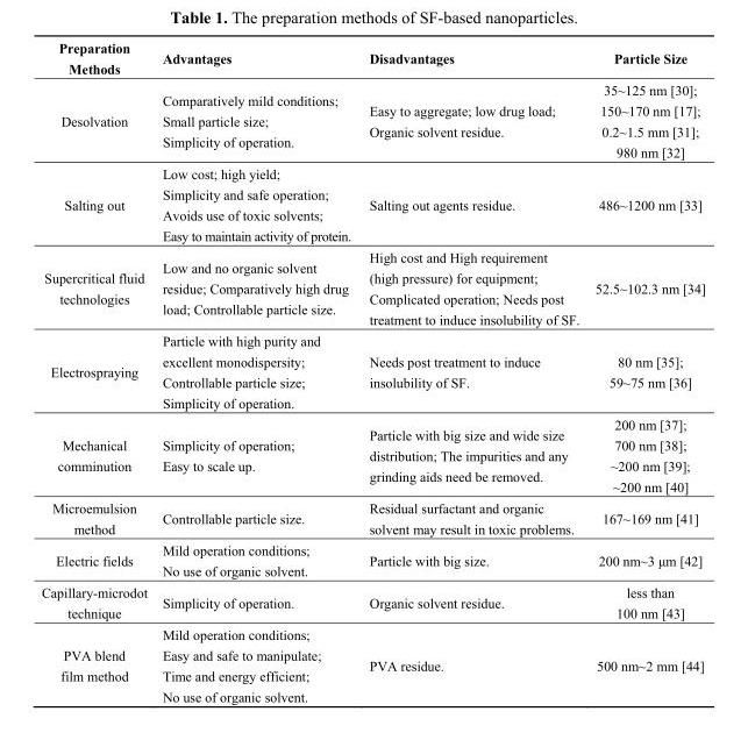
<table><thead><tr><td>Preparation Methods</td><td>Advantages</td><td>Disadvantages</td><td>Particle Size</td></tr></thead><tbody><tr><td>Desolvation</td><td>Comparatively mild conditions; Small particle size; Simplicity of operation.</td><td>Easy to aggregate; low drug load; Organic solvent residue.</td><td>35~125 nm [30]; 150~170 nm [17]; 0.2~1.5 mm [31]; 980 nm [32]</td></tr><tr><td>Salting out</td><td>Low cost; high yield; Simplicity and safe operation; Avoids use of toxic solvents; Easy to maintain activity of protein.</td><td>Salting out agents residue.</td><td>486~1200 nm [33]</td></tr><tr><td>Supercritical fluid technologies</td><td>Low and no organic solvent residue; Comparatively high drug load; Controllable particle size.</td><td>High cost and High requirement (high pressure) for equipment; Complicated operation; Needs post treatment to induce insolubility of SF.</td><td>52.5~102.3 nm [34]</td></tr><tr><td>Electrospraying</td><td>Particle with high purity and excellent monodispersity; Controllable particle size; Simplicity of operation.</td><td>Needs post treatment to induce insolubility of SF.</td><td>80 nm [35]; 59~75 nm [36]</td></tr><tr><td>Mechanical comminution</td><td>Simplicity of operation; Easy to scale up.</td><td>Particle with big size and wide size distribution; The impurities and any grinding aids need be removed.</td><td>200 nm [37]; 700 nm [38]; ~200 nm [39]; ~200 nm [40]</td></tr><tr><td>Microemulsion method</td><td>Controllable particle size.</td><td>Residual surfactant and organic solvent may result in toxic problems.</td><td>167~169 nm [41]</td></tr><tr><td>Electric fields</td><td>Mild operation conditions; No use of organic solvent.</td><td>Particle with big size.</td><td>200 nm~3 μm [42]</td></tr><tr><td>Capillary-microdot technique</td><td>Simplicity of operation.</td><td>Organic solvent residue.</td><td>less than 100 nm [43]</td></tr><tr><td>PVA blend film method</td><td>Mild operation conditions; Easy and safe to manipulate; Time and energy efficient; No use of organic solvent.</td><td>PVA residue.</td><td>500 nm~2 mm [44]</td></tr></tbody></table>